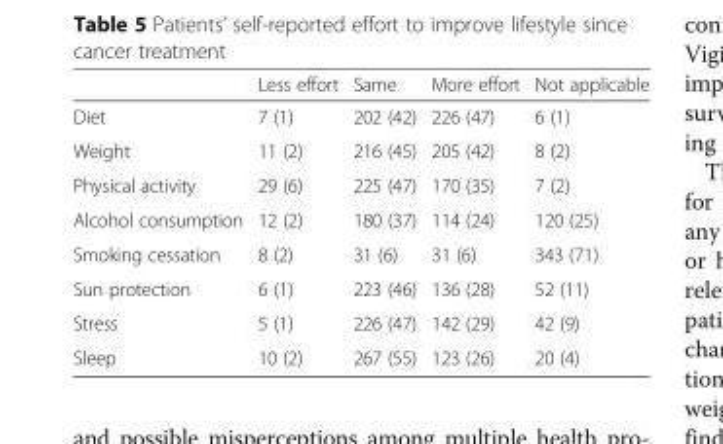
<table><thead><tr><td></td><td>Less effort</td><td>Same</td><td>More effort</td><td>Not applicable</td></tr></thead><tbody><tr><td>Diet</td><td>7 (1)</td><td>202 (42)</td><td>226 (47)</td><td>6 (1)</td></tr><tr><td>Weight</td><td>11 (2)</td><td>216 (45)</td><td>205 (42)</td><td>8 (2)</td></tr><tr><td>Physical activity</td><td>29 (6)</td><td>225 (47)</td><td>170 (35)</td><td>7 (2)</td></tr><tr><td>Alcohol consumption</td><td>12 (2)</td><td>180 (37)</td><td>114 (24)</td><td>120 (25)</td></tr><tr><td>Smoking cessation</td><td>8 (2)</td><td>31 (6)</td><td>31 (6)</td><td>343 (71)</td></tr><tr><td>Sun protection</td><td>6 (1)</td><td>223 (46)</td><td>136 (28)</td><td>52 (11)</td></tr><tr><td>Stress</td><td>5 (1)</td><td>226 (47)</td><td>142 (29)</td><td>42 (9)</td></tr><tr><td>Sleep</td><td>10 (2)</td><td>267 (55)</td><td>123 (26)</td><td>20 (4)</td></tr></tbody></table>